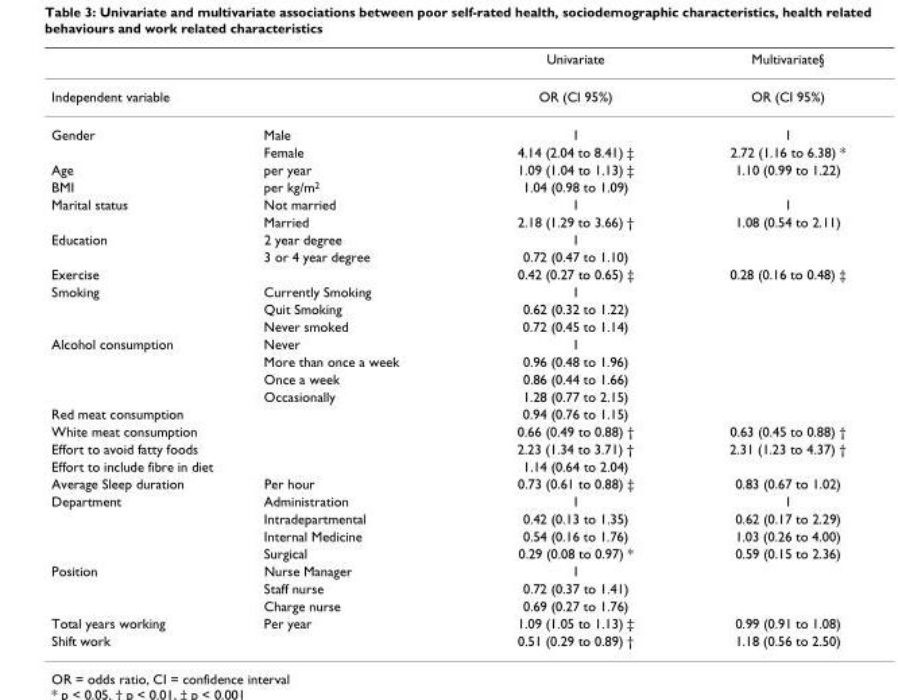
<table><thead><tr><td></td><td></td><td>Univariate</td><td>Multivariate§</td></tr></thead><tbody><tr><td>Independent variable</td><td></td><td>OR (CI 95%)</td><td>OR (CI 95%)</td></tr><tr><td rowspan="2">Gender</td><td>Male</td><td>1</td><td>1</td></tr><tr><td>Female</td><td>4.14 (2.04 to 8.41) ‡</td><td>2.72 (1.16 to 6.38) *</td></tr><tr><td>Age</td><td>per year</td><td>1.09 (1.04 to 1.13) ‡</td><td>1.10 (0.99 to 1.22)</td></tr><tr><td>BMI</td><td>per kg/m<sup>2</sup></td><td>1.04 (0.98 to 1.09)</td><td></td></tr><tr><td rowspan="2">Marital status</td><td>Not married</td><td>1</td><td>1</td></tr><tr><td>Married</td><td>2.18 (1.29 to 3.66) †</td><td>1.08 (0.54 to 2.11)</td></tr><tr><td rowspan="2">Education</td><td>2 year degree</td><td>1</td><td></td></tr><tr><td>3 or 4 year degree</td><td>0.72 (0.47 to 1.10)</td><td></td></tr><tr><td>Exercise</td><td></td><td>0.42 (0.27 to 0.65) ‡</td><td>0.28 (0.16 to 0.48) ‡</td></tr><tr><td rowspan="3">Smoking</td><td>Currently Smoking</td><td>1</td><td></td></tr><tr><td>Quit Smoking</td><td>0.62 (0.32 to 1.22)</td><td></td></tr><tr><td>Never smoked</td><td>0.72 (0.45 to 1.14)</td><td></td></tr><tr><td rowspan="4">Alcohol consumption</td><td>Never</td><td>1</td><td></td></tr><tr><td>More than once a week</td><td>0.96 (0.48 to 1.96)</td><td></td></tr><tr><td>Once a week</td><td>0.86 (0.44 to 1.66)</td><td></td></tr><tr><td>Occasionally</td><td>1.28 (0.77 to 2.15)</td><td></td></tr><tr><td>Red meat consumption</td><td></td><td>0.94 (0.76 to 1.15)</td><td></td></tr><tr><td>White meat consumption</td><td></td><td>0.66 (0.49 to 0.88) †</td><td>0.63 (0.45 to 0.88) †</td></tr><tr><td>Effort to avoid fatty foods</td><td></td><td>2.23 (1.34 to 3.71) †</td><td>2.31 (1.23 to 4.37) †</td></tr><tr><td>Effort to include fibre in diet</td><td></td><td>1.14 (0.64 to 2.04)</td><td></td></tr><tr><td>Average Sleep duration</td><td>Per hour</td><td>0.73 (0.61 to 0.88) ‡</td><td>0.83 (0.67 to 1.02)</td></tr><tr><td rowspan="4">Department</td><td>Administration</td><td>1</td><td>1</td></tr><tr><td>Intradepartmental</td><td>0.42 (0.13 to 1.35)</td><td>0.62 (0.17 to 2.29)</td></tr><tr><td>Internal Medicine</td><td>0.54 (0.16 to 1.76)</td><td>1.03 (0.26 to 4.00)</td></tr><tr><td>Surgical</td><td>0.29 (0.08 to 0.97) *</td><td>0.59 (0.15 to 2.36)</td></tr><tr><td rowspan="3">Position</td><td>Nurse Manager</td><td>1</td><td></td></tr><tr><td>Staff nurse</td><td>0.72 (0.37 to 1.41)</td><td></td></tr><tr><td>Charge nurse</td><td>0.69 (0.27 to 1.76)</td><td></td></tr><tr><td>Total years working</td><td>Per year</td><td>1.09 (1.05 to 1.13) ‡</td><td>0.99 (0.91 to 1.08)</td></tr><tr><td>Shift work</td><td></td><td>0.51 (0.29 to 0.89) †</td><td>1.18 (0.56 to 2.50)</td></tr></tbody></table>